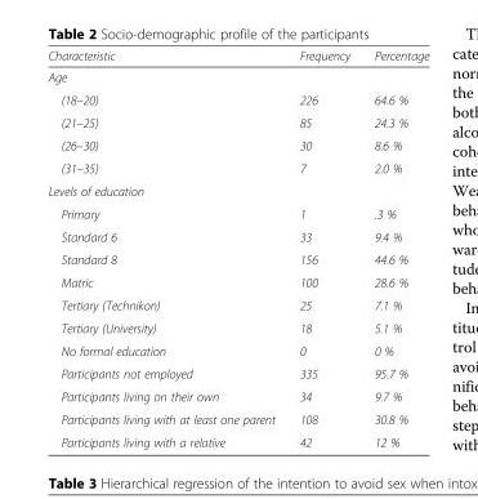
<table><thead><tr><td>Characteristic</td><td>Frequency</td><td>Percentage</td></tr></thead><tbody><tr><td colspan="3">Age</td></tr><tr><td>(18–20)</td><td>226</td><td>64.6 %</td></tr><tr><td>(21–25)</td><td>85</td><td>24.3 %</td></tr><tr><td>(26–30)</td><td>30</td><td>8.6 %</td></tr><tr><td>(31–35)</td><td>7</td><td>2.0 %</td></tr><tr><td colspan="3">Levels of education</td></tr><tr><td>Primary</td><td>1</td><td>.3 %</td></tr><tr><td>Standard 6</td><td>33</td><td>9.4 %</td></tr><tr><td>Standard 8</td><td>156</td><td>44.6 %</td></tr><tr><td>Matric</td><td>100</td><td>28.6 %</td></tr><tr><td>Tertiary (Technikon)</td><td>25</td><td>7.1 %</td></tr><tr><td>Tertiary (University)</td><td>18</td><td>5.1 %</td></tr><tr><td>No formal education</td><td>0</td><td>0 %</td></tr><tr><td>Participants not employed</td><td>335</td><td>95.7 %</td></tr><tr><td>Participants living on their own</td><td>34</td><td>9.7 %</td></tr><tr><td>Participants living with at least one parent</td><td>108</td><td>30.8 %</td></tr><tr><td>Participants living with a relative</td><td>42</td><td>12 %</td></tr></tbody></table>